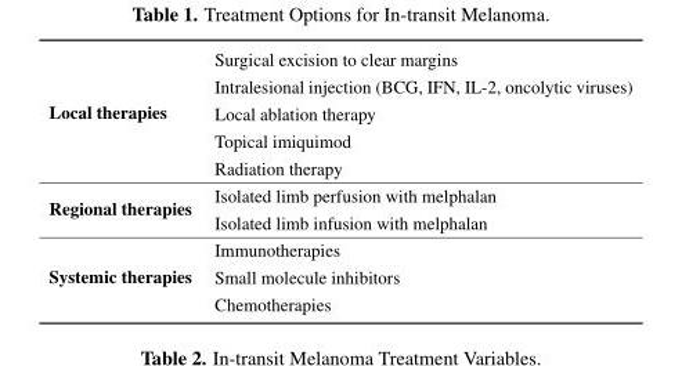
<table><tbody><tr><td rowspan="5">Local therapies</td><td>Surgical excision to clear margins</td></tr><tr><td>Intralesional injection (BCG, IFN, IL-2, oncolytic viruses)</td></tr><tr><td>Local ablation therapy</td></tr><tr><td>Topical imiquimod</td></tr><tr><td>Radiation therapy</td></tr><tr><td rowspan="2">Regional therapies</td><td>Isolated limb perfusion with melphalan</td></tr><tr><td>Isolated limb infusion with melphalan</td></tr><tr><td rowspan="3">Systemic therapies</td><td>Immunotherapies</td></tr><tr><td>Small molecule inhibitors</td></tr><tr><td>Chemotherapies</td></tr></tbody></table>